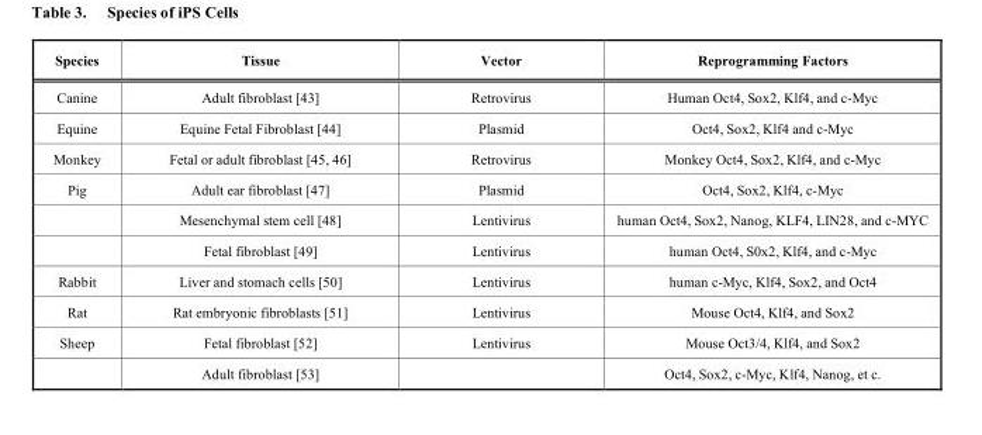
<table><thead><tr><td>Species</td><td>Tissue</td><td>Vector</td><td>Reprogramming Factors</td></tr></thead><tbody><tr><td>Canine</td><td>Adult fibroblast [43]</td><td>Retrovirus</td><td>Human Oct4, Sox2, Klf4, and c-Myc</td></tr><tr><td>Equine</td><td>Equine Fetal Fibroblast [44]</td><td>Plasmid</td><td>Oct4, Sox2, Klf4 and c-Myc</td></tr><tr><td>Monkey</td><td>Fetal or adult fibroblast [45, 46]</td><td>Retrovirus</td><td>Monkey Oct4, Sox2, Klf4, and c-Myc</td></tr><tr><td rowspan="3">Pig</td><td>Adult ear fibroblast [47]</td><td>Plasmid</td><td>Oct4, Sox2, Klf4, c-Myc</td></tr><tr><td>Mesenchymal stem cell [48]</td><td>Lentivirus</td><td>human Oct4, Sox2, Nanog, KLF4, LIN28, and c-MYC</td></tr><tr><td>Fetal fibroblast [49]</td><td>Lentivirus</td><td>human Oct4, S0x2, Klf4, and c-Myc</td></tr><tr><td>Rabbit</td><td>Liver and stomach cells [50]</td><td>Lentivirus</td><td>human c-Myc, Klf4, Sox2, and Oct4</td></tr><tr><td>Rat</td><td>Rat embryonic fibroblasts [51]</td><td>Lentivirus</td><td>Mouse Oct4, Klf4, and Sox2</td></tr><tr><td rowspan="2">Sheep</td><td>Fetal fibroblast [52]</td><td>Lentivirus</td><td>Mouse Oct3/4, Klf4, and Sox2</td></tr><tr><td>Adult fibroblast [53]</td><td></td><td>Oct4, Sox2, c-Myc, Klf4, Nanog, et c.</td></tr></tbody></table>